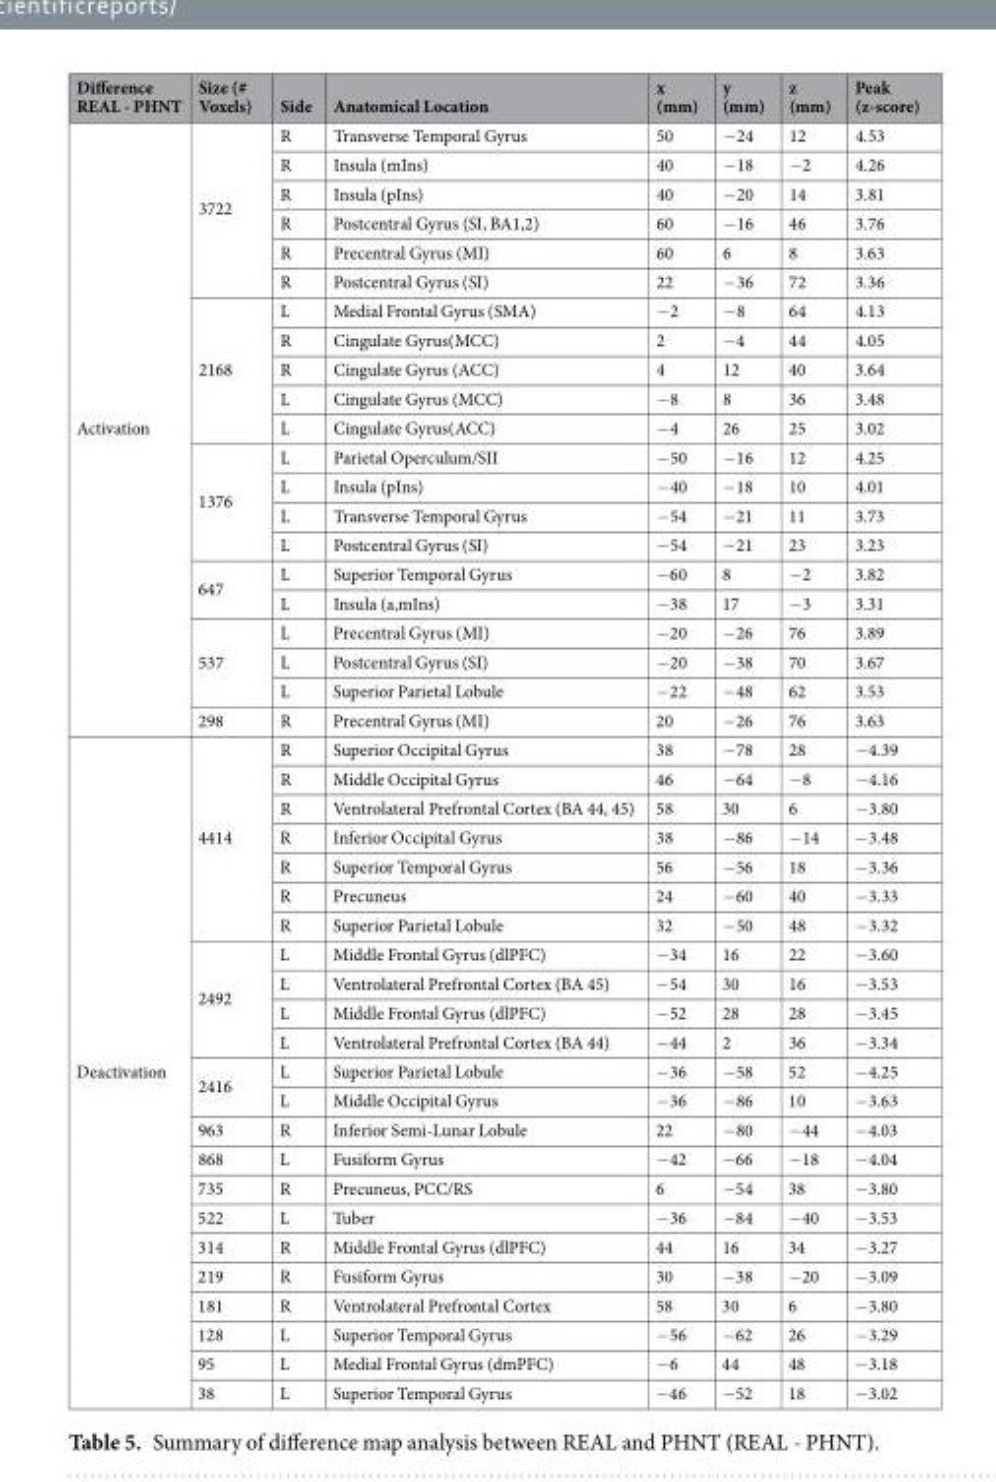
<table><thead><tr><td>Difference REAL - PHNT</td><td>Size (# Voxels)</td><td>Side</td><td>Anatomical Location</td><td>x (mm)</td><td>y (mm)</td><td>z (mm)</td><td>Peak (z-score)</td></tr></thead><tbody><tr><td rowspan="21">Activation</td><td rowspan="6">3722</td><td>R</td><td>Transverse Temporal Gyrus</td><td>50</td><td>−24</td><td>12</td><td>4.53</td></tr><tr><td>R</td><td>Insula (mIns)</td><td>40</td><td>−18</td><td>−2</td><td>4.26</td></tr><tr><td>R</td><td>Insula (pIns)</td><td>40</td><td>−20</td><td>14</td><td>3.81</td></tr><tr><td>R</td><td>Postcentral Gyrus (SI, BA1,2)</td><td>60</td><td>−16</td><td>46</td><td>3.76</td></tr><tr><td>R</td><td>Precentral Gyrus (MI)</td><td>60</td><td>6</td><td>8</td><td>3.63</td></tr><tr><td>R</td><td>Postcentral Gyrus (SI)</td><td>22</td><td>−36</td><td>72</td><td>3.36</td></tr><tr><td rowspan="5">2168</td><td>L</td><td>Medial Frontal Gyrus (SMA)</td><td>−2</td><td>−8</td><td>64</td><td>4.13</td></tr><tr><td>R</td><td>Cingulate Gyrus(MCC)</td><td>2</td><td>−4</td><td>44</td><td>4.05</td></tr><tr><td>R</td><td>Cingulate Gyrus (ACC)</td><td>4</td><td>12</td><td>40</td><td>3.64</td></tr><tr><td>L</td><td>Cingulate Gyrus (MCC)</td><td>−8</td><td>8</td><td>36</td><td>3.48</td></tr><tr><td>L</td><td>Cingulate Gyrus(ACC)</td><td>−4</td><td>26</td><td>25</td><td>3.02</td></tr><tr><td rowspan="4">1376</td><td>L</td><td>Parietal Operculum/SII</td><td>−50</td><td>−16</td><td>12</td><td>4.25</td></tr><tr><td>L</td><td>Insula (pIns)</td><td>−40</td><td>−18</td><td>10</td><td>4.01</td></tr><tr><td>L</td><td>Transverse Temporal Gyrus</td><td>−54</td><td>−21</td><td>11</td><td>3.73</td></tr><tr><td>L</td><td>Postcentral Gyrus (SI)</td><td>−54</td><td>−21</td><td>23</td><td>3.23</td></tr><tr><td rowspan="2">647</td><td>L</td><td>Superior Temporal Gyrus</td><td>−60</td><td>8</td><td>−2</td><td>3.82</td></tr><tr><td>L</td><td>Insula (a,mIns)</td><td>−38</td><td>17</td><td>−3</td><td>3.31</td></tr><tr><td rowspan="3">537</td><td>L</td><td>Precentral Gyrus (MI)</td><td>−20</td><td>−26</td><td>76</td><td>3.89</td></tr><tr><td>L</td><td>Postcentral Gyrus (SI)</td><td>−20</td><td>−38</td><td>70</td><td>3.67</td></tr><tr><td>L</td><td>Superior Parietal Lobule</td><td>−22</td><td>−48</td><td>62</td><td>3.53</td></tr><tr><td>298</td><td>R</td><td>Precentral Gyrus (MI)</td><td>20</td><td>−26</td><td>76</td><td>3.63</td></tr><tr><td rowspan="23">Deactivation</td><td rowspan="7">4414</td><td>R</td><td>Superior Occipital Gyrus</td><td>38</td><td>−78</td><td>28</td><td>−4.39</td></tr><tr><td>R</td><td>Middle Occipital Gyrus</td><td>46</td><td>−64</td><td>−8</td><td>−4.16</td></tr><tr><td>R</td><td>Ventrolateral Prefrontal Cortex (BA 44, 45)</td><td>58</td><td>30</td><td>6</td><td>−3.80</td></tr><tr><td>R</td><td>Inferior Occipital Gyrus</td><td>38</td><td>−86</td><td>−14</td><td>−3.48</td></tr><tr><td>R</td><td>Superior Temporal Gyrus</td><td>56</td><td>−56</td><td>18</td><td>−3.36</td></tr><tr><td>R</td><td>Precuneus</td><td>24</td><td>−60</td><td>40</td><td>−3.33</td></tr><tr><td>R</td><td>Superior Parietal Lobule</td><td>32</td><td>−50</td><td>48</td><td>−3.32</td></tr><tr><td rowspan="4">2492</td><td>L</td><td>Middle Frontal Gyrus (dlPFC)</td><td>−34</td><td>16</td><td>22</td><td>−3.60</td></tr><tr><td>L</td><td>Ventrolateral Prefrontal Cortex (BA 45)</td><td>−54</td><td>30</td><td>16</td><td>−3.53</td></tr><tr><td>L</td><td>Middle Frontal Gyrus (dlPFC)</td><td>−52</td><td>28</td><td>28</td><td>−3.45</td></tr><tr><td>L</td><td>Ventrolateral Prefrontal Cortex (BA 44)</td><td>−44</td><td>2</td><td>36</td><td>−3.34</td></tr><tr><td rowspan="2">2416</td><td>L</td><td>Superior Parietal Lobule</td><td>−36</td><td>−58</td><td>52</td><td>−4.25</td></tr><tr><td>L</td><td>Middle Occipital Gyrus</td><td>−36</td><td>−86</td><td>10</td><td>−3.63</td></tr><tr><td>963</td><td>R</td><td>Inferior Semi-Lunar Lobule</td><td>22</td><td>−80</td><td>−44</td><td>−4.03</td></tr><tr><td>868</td><td>L</td><td>Fusiform Gyrus</td><td>−42</td><td>−66</td><td>−18</td><td>−4.04</td></tr><tr><td>735</td><td>R</td><td>Precuneus, PCC/RS</td><td>6</td><td>−54</td><td>38</td><td>−3.80</td></tr><tr><td>522</td><td>L</td><td>Tuber</td><td>−36</td><td>−84</td><td>−40</td><td>−3.53</td></tr><tr><td>314</td><td>R</td><td>Middle Frontal Gyrus (dlPFC)</td><td>44</td><td>16</td><td>34</td><td>−3.27</td></tr><tr><td>219</td><td>R</td><td>Fusiform Gyrus</td><td>30</td><td>−38</td><td>−20</td><td>−3.09</td></tr><tr><td>181</td><td>R</td><td>Ventrolateral Prefrontal Cortex</td><td>58</td><td>30</td><td>6</td><td>−3.80</td></tr><tr><td>128</td><td>L</td><td>Superior Temporal Gyrus</td><td>−56</td><td>−62</td><td>26</td><td>−3.29</td></tr><tr><td>95</td><td>L</td><td>Medial Frontal Gyrus (dmPFC)</td><td>−6</td><td>44</td><td>48</td><td>−3.18</td></tr><tr><td>38</td><td>L</td><td>Superior Temporal Gyrus</td><td>−46</td><td>−52</td><td>18</td><td>−3.02</td></tr></tbody></table>